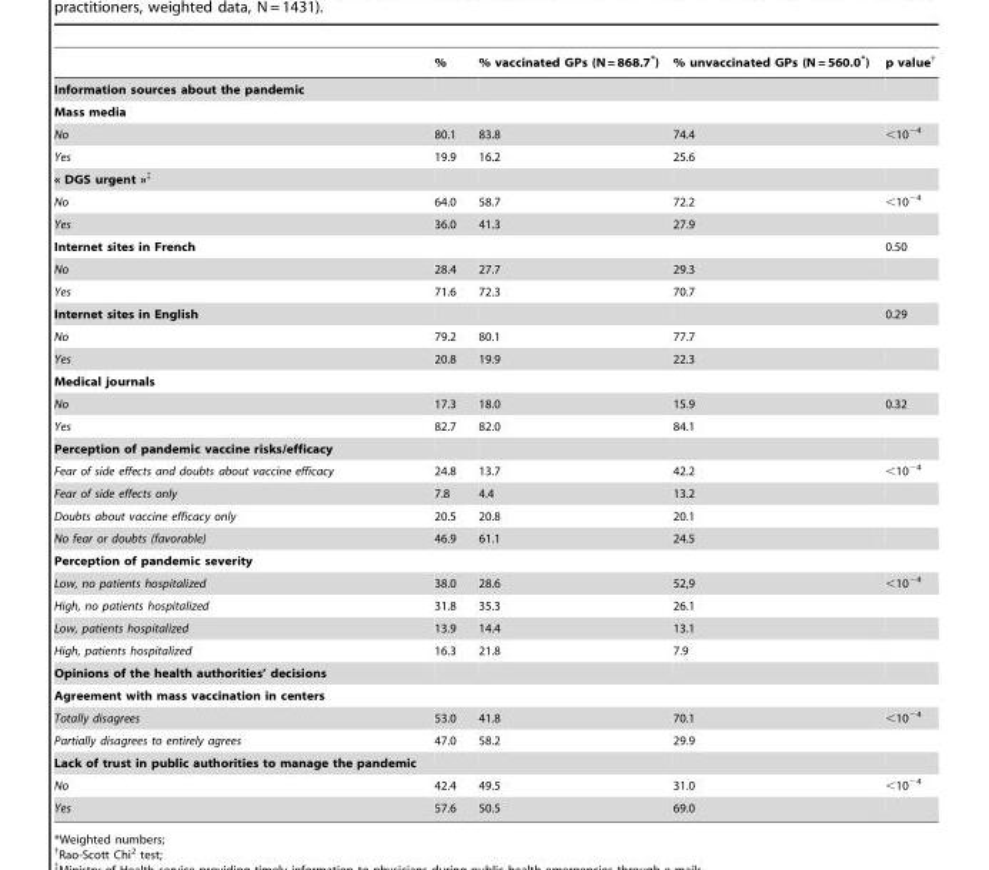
<table><thead><tr><td></td><td>%</td><td>% vaccinated GPs (N = 868.7*)</td><td>% unvaccinated GPs (N = 560.0*)</td><td>p value†</td></tr></thead><tbody><tr><td colspan="5">Information sources about the pandemic</td></tr><tr><td colspan="5">Mass media</td></tr><tr><td>No</td><td>80.1</td><td>83.8</td><td>74.4</td><td>&lt;10<sup>−4</sup></td></tr><tr><td>Yes</td><td>19.9</td><td>16.2</td><td>25.6</td><td></td></tr><tr><td colspan="5">« DGS urgent »‡</td></tr><tr><td>No</td><td>64.0</td><td>58.7</td><td>72.2</td><td>&lt;10<sup>−4</sup></td></tr><tr><td>Yes</td><td>36.0</td><td>41.3</td><td>27.9</td><td></td></tr><tr><td>Internet sites in French</td><td></td><td></td><td></td><td>0.50</td></tr><tr><td>No</td><td>28.4</td><td>27.7</td><td>29.3</td><td></td></tr><tr><td>Yes</td><td>71.6</td><td>72.3</td><td>70.7</td><td></td></tr><tr><td>Internet sites in English</td><td></td><td></td><td></td><td>0.29</td></tr><tr><td>No</td><td>79.2</td><td>80.1</td><td>77.7</td><td></td></tr><tr><td>Yes</td><td>20.8</td><td>19.9</td><td>22.3</td><td></td></tr><tr><td colspan="5">Medical journals</td></tr><tr><td>No</td><td>17.3</td><td>18.0</td><td>15.9</td><td>0.32</td></tr><tr><td>Yes</td><td>82.7</td><td>82.0</td><td>84.1</td><td></td></tr><tr><td colspan="5">Perception of pandemic vaccine risks/efficacy</td></tr><tr><td>Fear of side effects and doubts about vaccine efficacy</td><td>24.8</td><td>13.7</td><td>42.2</td><td>&lt;10<sup>−4</sup></td></tr><tr><td>Fear of side effects only</td><td>7.8</td><td>4.4</td><td>13.2</td><td></td></tr><tr><td>Doubts about vaccine efficacy only</td><td>20.5</td><td>20.8</td><td>20.1</td><td></td></tr><tr><td>No fear or doubts (favorable)</td><td>46.9</td><td>61.1</td><td>24.5</td><td></td></tr><tr><td colspan="5">Perception of pandemic severity</td></tr><tr><td>Low, no patients hospitalized</td><td>38.0</td><td>28.6</td><td>52,9</td><td>&lt;10<sup>−4</sup></td></tr><tr><td>High, no patients hospitalized</td><td>31.8</td><td>35.3</td><td>26.1</td><td></td></tr><tr><td>Low, patients hospitalized</td><td>13.9</td><td>14.4</td><td>13.1</td><td></td></tr><tr><td>High, patients hospitalized</td><td>16.3</td><td>21.8</td><td>7.9</td><td></td></tr><tr><td colspan="5">Opinions of the health authorities’ decisions</td></tr><tr><td colspan="5">Agreement with mass vaccination in centers</td></tr><tr><td>Totally disagrees</td><td>53.0</td><td>41.8</td><td>70.1</td><td>&lt;10<sup>−4</sup></td></tr><tr><td>Partially disagrees to entirely agrees</td><td>47.0</td><td>58.2</td><td>29.9</td><td></td></tr><tr><td colspan="5">Lack of trust in public authorities to manage the pandemic</td></tr><tr><td>No</td><td>42.4</td><td>49.5</td><td>31.0</td><td>&lt;10<sup>−4</sup></td></tr><tr><td>Yes</td><td>57.6</td><td>50.5</td><td>69.0</td><td></td></tr></tbody></table>